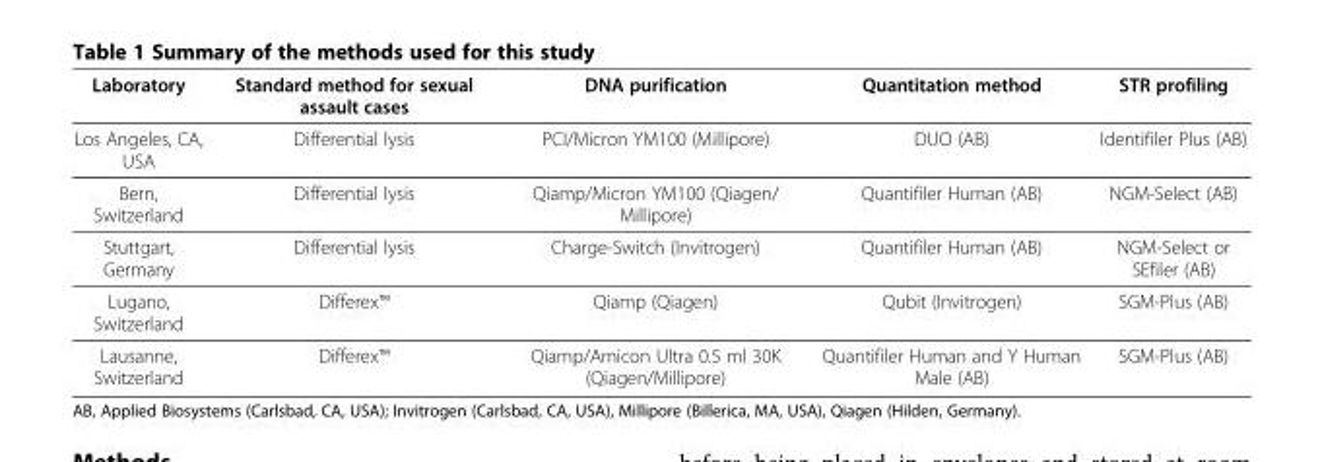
<table><thead><tr><td>Laboratory</td><td>Standard method for sexual assault cases</td><td>DNA purification</td><td>Quantitation method</td><td>STR profiling</td></tr></thead><tbody><tr><td>Los Angeles, CA, USA</td><td>Differential lysis</td><td>PCI/Micron YM100 (Millipore)</td><td>DUO (AB)</td><td>Identifiler Plus (AB)</td></tr><tr><td>Bern, Switzerland</td><td>Differential lysis</td><td>Qiamp/Micron YM100 (Qiagen/ Millipore)</td><td>Quantifiler Human (AB)</td><td>NGM-Select (AB)</td></tr><tr><td>Stuttgart, Germany</td><td>Differential lysis</td><td>Charge-Switch (Invitrogen)</td><td>Quantifiler Human (AB)</td><td>NGM-Select or SEfiler (AB)</td></tr><tr><td>Lugano, Switzerland</td><td>Differex™</td><td>Qiamp (Qiagen)</td><td>Qubit (Invitrogen)</td><td>SGM-Plus (AB)</td></tr><tr><td>Lausanne, Switzerland</td><td>Differex™</td><td>Qiamp/Amicon Ultra 0.5 ml 30K (Qiagen/Millipore)</td><td>Quantifiler Human and Y Human Male (AB)</td><td>SGM-Plus (AB)</td></tr></tbody></table>